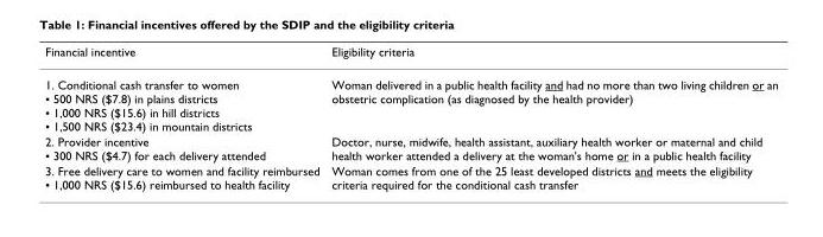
<table><thead><tr><td>Financial incentive</td><td>Eligibility criteria</td></tr></thead><tbody><tr><td>1. Conditional cash transfer to women ▪ 500 NRS ($7.8) in plains districts ▪ 1,000 NRS ($15.6) in hill districts ▪ 1,500 NRS ($23.4) in mountain districts</td><td>Woman delivered in a public health facility and had no more than two living children or an obstetric complication (as diagnosed by the health provider)</td></tr><tr><td>2. Provider incentive ▪ 300 NRS ($4.7) for each delivery attended</td><td>Doctor, nurse, midwife, health assistant, auxiliary health worker or maternal and child health worker attended a delivery at the woman&#x27;s home or in a public health facility</td></tr><tr><td>3. Free delivery care to women and facility reimbursed ▪ 1,000 NRS ($15.6) reimbursed to health facility</td><td>Woman comes from one of the 25 least developed districts and meets the eligibility criteria required for the conditional cash transfer</td></tr></tbody></table>